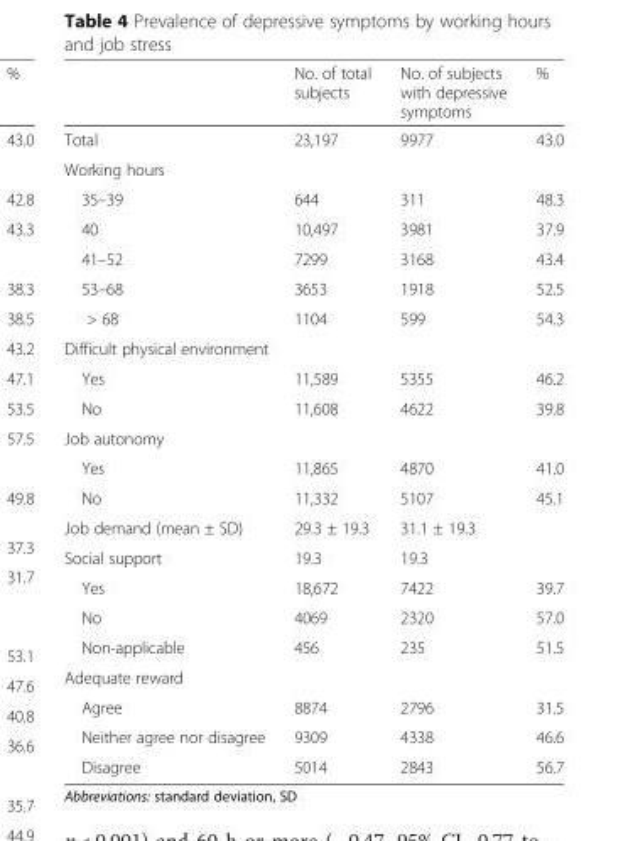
<table><thead><tr><td></td><td>No. of total subjects</td><td>No. of subjects with depressive symptoms</td><td>%</td></tr></thead><tbody><tr><td>Total</td><td>23,197</td><td>9977</td><td>43.0</td></tr><tr><td colspan="4">Working hours</td></tr><tr><td>35–39</td><td>644</td><td>311</td><td>48.3</td></tr><tr><td>40</td><td>10,497</td><td>3981</td><td>37.9</td></tr><tr><td>41–52</td><td>7299</td><td>3168</td><td>43.4</td></tr><tr><td>53–68</td><td>3653</td><td>1918</td><td>52.5</td></tr><tr><td>&gt; 68</td><td>1104</td><td>599</td><td>54.3</td></tr><tr><td colspan="4">Difficult physical environment</td></tr><tr><td>Yes</td><td>11,589</td><td>5355</td><td>46.2</td></tr><tr><td>No</td><td>11,608</td><td>4622</td><td>39.8</td></tr><tr><td colspan="4">Job autonomy</td></tr><tr><td>Yes</td><td>11,865</td><td>4870</td><td>41.0</td></tr><tr><td>No</td><td>11,332</td><td>5107</td><td>45.1</td></tr><tr><td>Job demand (mean ± SD)</td><td>29.3 ± 19.3</td><td>31.1 ± 19.3</td><td></td></tr><tr><td>Social support</td><td>19.3</td><td>19.3</td><td></td></tr><tr><td>Yes</td><td>18,672</td><td>7422</td><td>39.7</td></tr><tr><td>No</td><td>4069</td><td>2320</td><td>57.0</td></tr><tr><td>Non-applicable</td><td>456</td><td>235</td><td>51.5</td></tr><tr><td colspan="4">Adequate reward</td></tr><tr><td>Agree</td><td>8874</td><td>2796</td><td>31.5</td></tr><tr><td>Neither agree nor disagree</td><td>9309</td><td>4338</td><td>46.6</td></tr><tr><td>Disagree</td><td>5014</td><td>2843</td><td>56.7</td></tr></tbody></table>